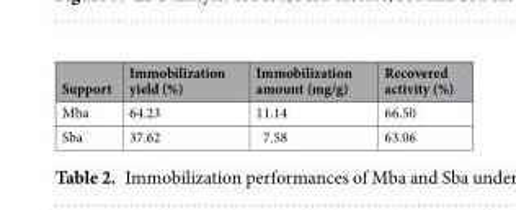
<table><thead><tr><td>Support</td><td>Immobilization yield (%)</td><td>Immobilization amount (mg/g)</td><td>Recovered activity (%)</td></tr></thead><tbody><tr><td>Mba</td><td>64.23</td><td>11.14</td><td>66.50</td></tr><tr><td>Sba</td><td>37.62</td><td>7.58</td><td>63.06</td></tr></tbody></table>